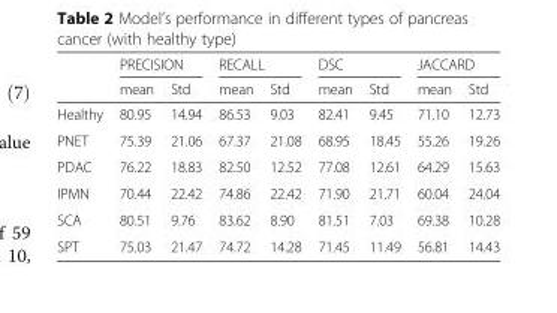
<table><thead><tr><td rowspan="2"></td><td colspan="2">PRECISION</td><td colspan="2">RECALL</td><td colspan="2">DSC</td><td colspan="2">JACCARD</td></tr><tr><td>mean</td><td>Std</td><td>mean</td><td>Std</td><td>mean</td><td>Std</td><td>mean</td><td>Std</td></tr></thead><tbody><tr><td>Healthy</td><td>80.95</td><td>14.94</td><td>86.53</td><td>9.03</td><td>82.41</td><td>9.45</td><td>71.10</td><td>12.73</td></tr><tr><td>PNET</td><td>75.39</td><td>21.06</td><td>67.37</td><td>21.08</td><td>68.95</td><td>18.45</td><td>55.26</td><td>19.26</td></tr><tr><td>PDAC</td><td>76.22</td><td>18.83</td><td>82.50</td><td>12.52</td><td>77.08</td><td>12.61</td><td>64.29</td><td>15.63</td></tr><tr><td>IPMN</td><td>70.44</td><td>22.42</td><td>74.86</td><td>22.42</td><td>71.90</td><td>21.71</td><td>60.04</td><td>24.04</td></tr><tr><td>SCA</td><td>80.51</td><td>9.76</td><td>83.62</td><td>8.90</td><td>81.51</td><td>7.03</td><td>69.38</td><td>10.28</td></tr><tr><td>SPT</td><td>75.03</td><td>21.47</td><td>74.72</td><td>14.28</td><td>71.45</td><td>11.49</td><td>56.81</td><td>14.43</td></tr></tbody></table>